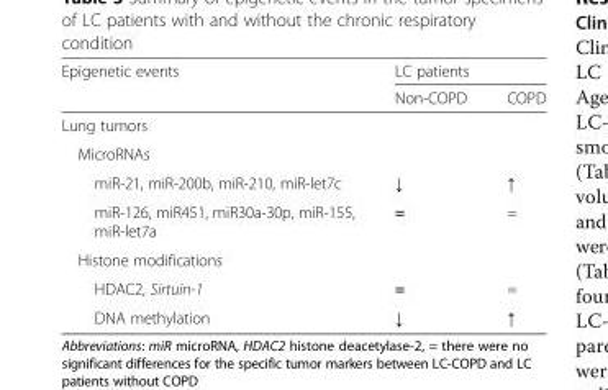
<table><thead><tr><td rowspan="2">Epigenetic events</td><td colspan="2">LC patients</td></tr><tr><td>Non-COPD</td><td>COPD</td></tr></thead><tbody><tr><td colspan="3">Lung tumors</td></tr><tr><td colspan="3">MicroRNAs</td></tr><tr><td>miR-21, miR-200b, miR-210, miR-let7c</td><td>↓</td><td>↑</td></tr><tr><td>miR-126, miR451, miR30a-30p, miR-155, miR-let7a</td><td>=</td><td>=</td></tr><tr><td colspan="3">Histone modifications</td></tr><tr><td>HDAC2, Sirtuin-1</td><td>=</td><td>=</td></tr><tr><td>DNA methylation</td><td>↓</td><td>↑</td></tr></tbody></table>